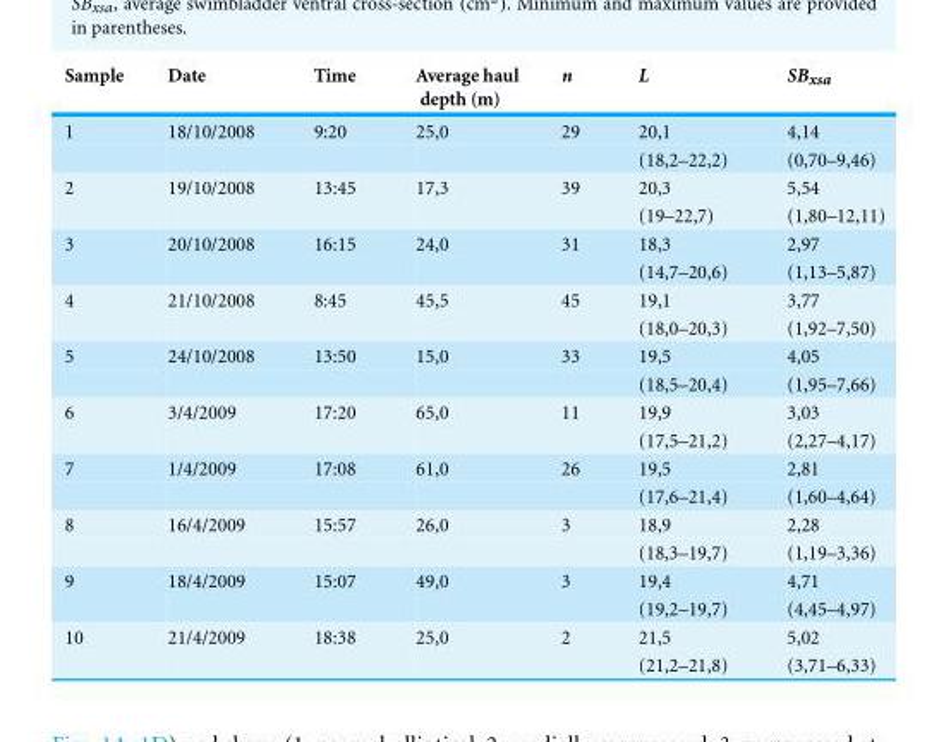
<table><thead><tr><td>Sample</td><td>Date</td><td>Time</td><td>Average haul depth (m)</td><td>n</td><td>L</td><td>SB<sub>xsa</sub></td></tr></thead><tbody><tr><td rowspan="2">1</td><td>18/10/2008</td><td>9:20</td><td>25,0</td><td>29</td><td>20,1</td><td>4,14</td></tr><tr><td></td><td></td><td></td><td></td><td>(18,2–22,2)</td><td>(0,70–9,46)</td></tr><tr><td rowspan="2">2</td><td>19/10/2008</td><td>13:45</td><td>17,3</td><td>39</td><td>20,3</td><td>5,54</td></tr><tr><td></td><td></td><td></td><td></td><td>(19–22,7)</td><td>(1,80–12,11)</td></tr><tr><td rowspan="2">3</td><td>20/10/2008</td><td>16:15</td><td>24,0</td><td>31</td><td>18,3</td><td>2,97</td></tr><tr><td></td><td></td><td></td><td></td><td>(14,7–20,6)</td><td>(1,13–5,87)</td></tr><tr><td rowspan="2">4</td><td>21/10/2008</td><td>8:45</td><td>45,5</td><td>45</td><td>19,1</td><td>3,77</td></tr><tr><td></td><td></td><td></td><td></td><td>(18,0–20,3)</td><td>(1,92–7,50)</td></tr><tr><td rowspan="2">5</td><td>24/10/2008</td><td>13:50</td><td>15,0</td><td>33</td><td>19,5</td><td>4,05</td></tr><tr><td></td><td></td><td></td><td></td><td>(18,5–20,4)</td><td>(1,95–7,66)</td></tr><tr><td rowspan="2">6</td><td>3/4/2009</td><td>17:20</td><td>65,0</td><td>11</td><td>19,9</td><td>3,03</td></tr><tr><td></td><td></td><td></td><td></td><td>(17,5–21,2)</td><td>(2,27–4,17)</td></tr><tr><td rowspan="2">7</td><td>1/4/2009</td><td>17:08</td><td>61,0</td><td>26</td><td>19,5</td><td>2,81</td></tr><tr><td></td><td></td><td></td><td></td><td>(17,6–21,4)</td><td>(1,60–4,64)</td></tr><tr><td rowspan="2">8</td><td>16/4/2009</td><td>15:57</td><td>26,0</td><td>3</td><td>18,9</td><td>2,28</td></tr><tr><td></td><td></td><td></td><td></td><td>(18,3–19,7)</td><td>(1,19–3,36)</td></tr><tr><td rowspan="2">9</td><td>18/4/2009</td><td>15:07</td><td>49,0</td><td>3</td><td>19,4</td><td>4,71</td></tr><tr><td></td><td></td><td></td><td></td><td>(19,2–19,7)</td><td>(4,45–4,97)</td></tr><tr><td rowspan="2">10</td><td>21/4/2009</td><td>18:38</td><td>25,0</td><td>2</td><td>21,5</td><td>5,02</td></tr><tr><td></td><td></td><td></td><td></td><td>(21,2–21,8)</td><td>(3,71–6,33)</td></tr></tbody></table>